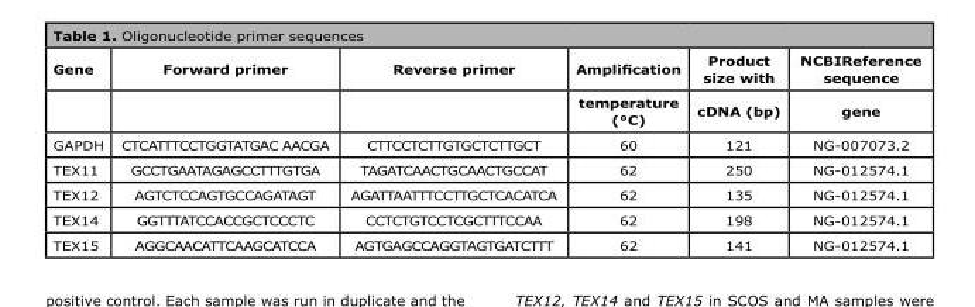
<table><thead><tr><td rowspan="2">Gene</td><td rowspan="2">Forward primer</td><td rowspan="2">Reverse primer</td><td rowspan="2">Amplification temperature (°C)</td><td rowspan="2">Product size with cDNA (bp)</td><td rowspan="2">NCBIReference sequence gene</td></tr><tr></tr></thead><tbody><tr><td>GAPDH</td><td>CTCATTTCCTGGTATGAC AACGA</td><td>CTTCCTCTTGTGCTCTTGCT</td><td>60</td><td>121</td><td>NG-007073.2</td></tr><tr><td>TEX11</td><td>GCCTGAATAGAGCCTTTGTGA</td><td>TAGATCAACTGCAACTGCCAT</td><td>62</td><td>250</td><td>NG-012574.1</td></tr><tr><td>TEX12</td><td>AGTCTCCAGTGCCAGATAGT</td><td>AGATTAATTTCCTTGCTCACATCA</td><td>62</td><td>135</td><td>NG-012574.1</td></tr><tr><td>TEX14</td><td>GGTTTATCCACCGCTCCCTC</td><td>CCTCTGTCCTCGCTTTCCAA</td><td>62</td><td>198</td><td>NG-012574.1</td></tr><tr><td>TEX15</td><td>AGGCAACATTCAAGCATCCA</td><td>AGTGAGCCAGGTAGTGATCTTT</td><td>62</td><td>141</td><td>NG-012574.1</td></tr></tbody></table>